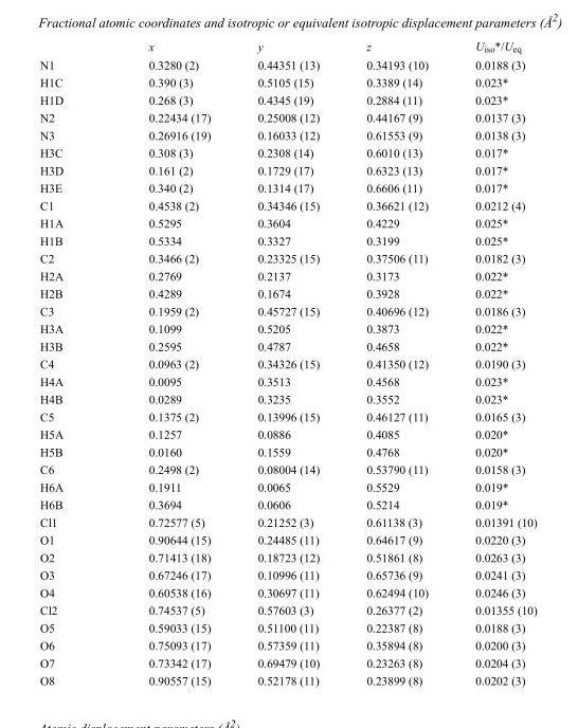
<table><thead><tr><td></td><td>x</td><td>y</td><td>z</td><td>U<sub>iso</sub>*/U<sub>eq</sub></td></tr></thead><tbody><tr><td>N1</td><td>0.3280 (2)</td><td>0.44351 (13)</td><td>0.34193 (10)</td><td>0.0188 (3)</td></tr><tr><td>H1C</td><td>0.390 (3)</td><td>0.5105 (15)</td><td>0.3389 (14)</td><td>0.023*</td></tr><tr><td>H1D</td><td>0.268 (3)</td><td>0.4345 (19)</td><td>0.2884 (11)</td><td>0.023*</td></tr><tr><td>N2</td><td>0.22434 (17)</td><td>0.25008 (12)</td><td>0.44167 (9)</td><td>0.0137 (3)</td></tr><tr><td>N3</td><td>0.26916 (19)</td><td>0.16033 (12)</td><td>0.61553 (9)</td><td>0.0138 (3)</td></tr><tr><td>H3C</td><td>0.308 (3)</td><td>0.2308 (14)</td><td>0.6010 (13)</td><td>0.017*</td></tr><tr><td>H3D</td><td>0.161 (2)</td><td>0.1729 (17)</td><td>0.6323 (13)</td><td>0.017*</td></tr><tr><td>H3E</td><td>0.340 (2)</td><td>0.1314 (17)</td><td>0.6606 (11)</td><td>0.017*</td></tr><tr><td>C1</td><td>0.4538 (2)</td><td>0.34346 (15)</td><td>0.36621 (12)</td><td>0.0212 (4)</td></tr><tr><td>H1A</td><td>0.5295</td><td>0.3604</td><td>0.4229</td><td>0.025*</td></tr><tr><td>H1B</td><td>0.5334</td><td>0.3327</td><td>0.3199</td><td>0.025*</td></tr><tr><td>C2</td><td>0.3466 (2)</td><td>0.23325 (15)</td><td>0.37506 (11)</td><td>0.0182 (3)</td></tr><tr><td>H2A</td><td>0.2769</td><td>0.2137</td><td>0.3173</td><td>0.022*</td></tr><tr><td>H2B</td><td>0.4289</td><td>0.1674</td><td>0.3928</td><td>0.022*</td></tr><tr><td>C3</td><td>0.1959 (2)</td><td>0.45727 (15)</td><td>0.40696 (12)</td><td>0.0186 (3)</td></tr><tr><td>H3A</td><td>0.1099</td><td>0.5205</td><td>0.3873</td><td>0.022*</td></tr><tr><td>H3B</td><td>0.2595</td><td>0.4787</td><td>0.4658</td><td>0.022*</td></tr><tr><td>C4</td><td>0.0963 (2)</td><td>0.34326 (15)</td><td>0.41350 (12)</td><td>0.0190 (3)</td></tr><tr><td>H4A</td><td>0.0095</td><td>0.3513</td><td>0.4568</td><td>0.023*</td></tr><tr><td>H4B</td><td>0.0289</td><td>0.3235</td><td>0.3552</td><td>0.023*</td></tr><tr><td>C5</td><td>0.1375 (2)</td><td>0.13996 (15)</td><td>0.46127 (11)</td><td>0.0165 (3)</td></tr><tr><td>H5A</td><td>0.1257</td><td>0.0886</td><td>0.4085</td><td>0.020*</td></tr><tr><td>H5B</td><td>0.0160</td><td>0.1559</td><td>0.4768</td><td>0.020*</td></tr><tr><td>C6</td><td>0.2498 (2)</td><td>0.08004 (14)</td><td>0.53790 (11)</td><td>0.0158 (3)</td></tr><tr><td>H6A</td><td>0.1911</td><td>0.0065</td><td>0.5529</td><td>0.019*</td></tr><tr><td>H6B</td><td>0.3694</td><td>0.0606</td><td>0.5214</td><td>0.019*</td></tr><tr><td>Cl1</td><td>0.72577 (5)</td><td>0.21252 (3)</td><td>0.61138 (3)</td><td>0.01391 (10)</td></tr><tr><td>O1</td><td>0.90644 (15)</td><td>0.24485 (11)</td><td>0.64617 (9)</td><td>0.0220 (3)</td></tr><tr><td>O2</td><td>0.71413 (18)</td><td>0.18723 (12)</td><td>0.51861 (8)</td><td>0.0263 (3)</td></tr><tr><td>O3</td><td>0.67246 (17)</td><td>0.10996 (11)</td><td>0.65736 (9)</td><td>0.0241 (3)</td></tr><tr><td>O4</td><td>0.60538 (16)</td><td>0.30697 (11)</td><td>0.62494 (10)</td><td>0.0246 (3)</td></tr><tr><td>Cl2</td><td>0.74537 (5)</td><td>0.57603 (3)</td><td>0.26377 (2)</td><td>0.01355 (10)</td></tr><tr><td>O5</td><td>0.59033 (15)</td><td>0.51100 (11)</td><td>0.22387 (8)</td><td>0.0188 (3)</td></tr><tr><td>O6</td><td>0.75093 (17)</td><td>0.57359 (11)</td><td>0.35894 (8)</td><td>0.0200 (3)</td></tr><tr><td>O7</td><td>0.73342 (17)</td><td>0.69479 (10)</td><td>0.23263 (8)</td><td>0.0204 (3)</td></tr><tr><td>O8</td><td>0.90557 (15)</td><td>0.52178 (11)</td><td>0.23899 (8)</td><td>0.0202 (3)</td></tr></tbody></table>